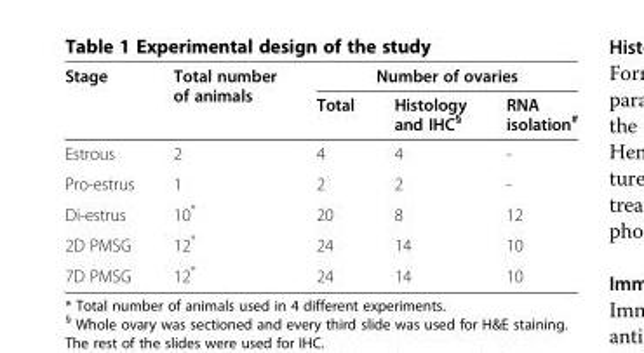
<table><thead><tr><td rowspan="2">Stage</td><td rowspan="2">Total number of animals</td><td colspan="3">Number of ovaries</td></tr><tr><td>Total</td><td>Histology and IHC<sup>§</sup></td><td>RNA isolation<sup>#</sup></td></tr></thead><tbody><tr><td>Estrous</td><td>2</td><td>4</td><td>4</td><td>-</td></tr><tr><td>Pro-estrus</td><td>1</td><td>2</td><td>2</td><td>-</td></tr><tr><td>Di-estrus</td><td>10*</td><td>20</td><td>8</td><td>12</td></tr><tr><td>2D PMSG</td><td>12*</td><td>24</td><td>14</td><td>10</td></tr><tr><td>7D PMSG</td><td>12*</td><td>24</td><td>14</td><td>10</td></tr></tbody></table>